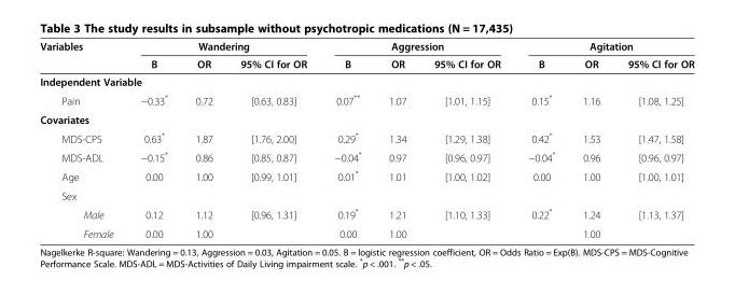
<table><thead><tr><td rowspan="2">Variables</td><td colspan="3">Wandering</td><td colspan="3">Aggression</td><td colspan="3">Agitation</td></tr><tr><td>B</td><td>OR</td><td>95% CI for OR</td><td>B</td><td>OR</td><td>95% CI for OR</td><td>B</td><td>OR</td><td>95% CI for OR</td></tr></thead><tbody><tr><td colspan="10">Independent Variable</td></tr><tr><td>Pain</td><td>−0.33*</td><td>0.72</td><td>[0.63, 0.83]</td><td>0.07**</td><td>1.07</td><td>[1.01, 1.15]</td><td>0.15*</td><td>1.16</td><td>[1.08, 1.25]</td></tr><tr><td colspan="10">Covariates</td></tr><tr><td>MDS-CPS</td><td>0.63*</td><td>1.87</td><td>[1.76, 2.00]</td><td>0.29*</td><td>1.34</td><td>[1.29, 1.38]</td><td>0.42*</td><td>1.53</td><td>[1.47, 1.58]</td></tr><tr><td>MDS-ADL</td><td>−0.15*</td><td>0.86</td><td>[0.85, 0.87]</td><td>−0.04*</td><td>0.97</td><td>[0.96, 0.97]</td><td>−0.04*</td><td>0.96</td><td>[0.96, 0.97]</td></tr><tr><td>Age</td><td>0.00</td><td>1.00</td><td>[0.99, 1.01]</td><td>0.01*</td><td>1.01</td><td>[1.00, 1.02]</td><td>0.00</td><td>1.00</td><td>[1.00, 1.01]</td></tr><tr><td colspan="10">Sex</td></tr><tr><td>Male</td><td>0.12</td><td>1.12</td><td>[0.96, 1.31]</td><td>0.19*</td><td>1.21</td><td>[1.10, 1.33]</td><td>0.22*</td><td>1.24</td><td>[1.13, 1.37]</td></tr><tr><td>Female</td><td>0.00</td><td>1.00</td><td></td><td>0.00</td><td>1.00</td><td></td><td></td><td>1.00</td><td></td></tr></tbody></table>